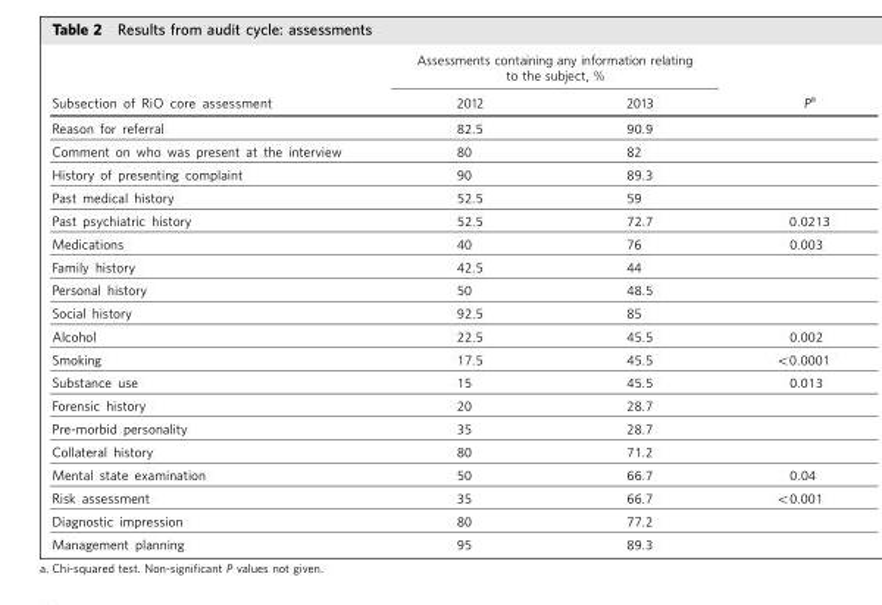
<table><thead><tr><td rowspan="2">Subsection of RiO core assessment</td><td colspan="2">Assessments containing any information relating to the subject, %</td><td rowspan="2">P<sup>a</sup></td></tr><tr><td>2012</td><td>2013</td></tr></thead><tbody><tr><td>Reason for referral</td><td>82.5</td><td>90.9</td><td></td></tr><tr><td>Comment on who was present at the interview</td><td>80</td><td>82</td><td></td></tr><tr><td>History of presenting complaint</td><td>90</td><td>89.3</td><td></td></tr><tr><td>Past medical history</td><td>52.5</td><td>59</td><td></td></tr><tr><td>Past psychiatric history</td><td>52.5</td><td>72.7</td><td>0.0213</td></tr><tr><td>Medications</td><td>40</td><td>76</td><td>0.003</td></tr><tr><td>Family history</td><td>42.5</td><td>44</td><td></td></tr><tr><td>Personal history</td><td>50</td><td>48.5</td><td></td></tr><tr><td>Social history</td><td>92.5</td><td>85</td><td></td></tr><tr><td>Alcohol</td><td>22.5</td><td>45.5</td><td>0.002</td></tr><tr><td>Smoking</td><td>17.5</td><td>45.5</td><td>&lt;0.0001</td></tr><tr><td>Substance use</td><td>15</td><td>45.5</td><td>0.013</td></tr><tr><td>Forensic history</td><td>20</td><td>28.7</td><td></td></tr><tr><td>Pre-morbid personality</td><td>35</td><td>28.7</td><td></td></tr><tr><td>Collateral history</td><td>80</td><td>71.2</td><td></td></tr><tr><td>Mental state examination</td><td>50</td><td>66.7</td><td>0.04</td></tr><tr><td>Risk assessment</td><td>35</td><td>66.7</td><td>&lt;0.001</td></tr><tr><td>Diagnostic impression</td><td>80</td><td>77.2</td><td></td></tr><tr><td>Management planning</td><td>95</td><td>89.3</td><td></td></tr></tbody></table>